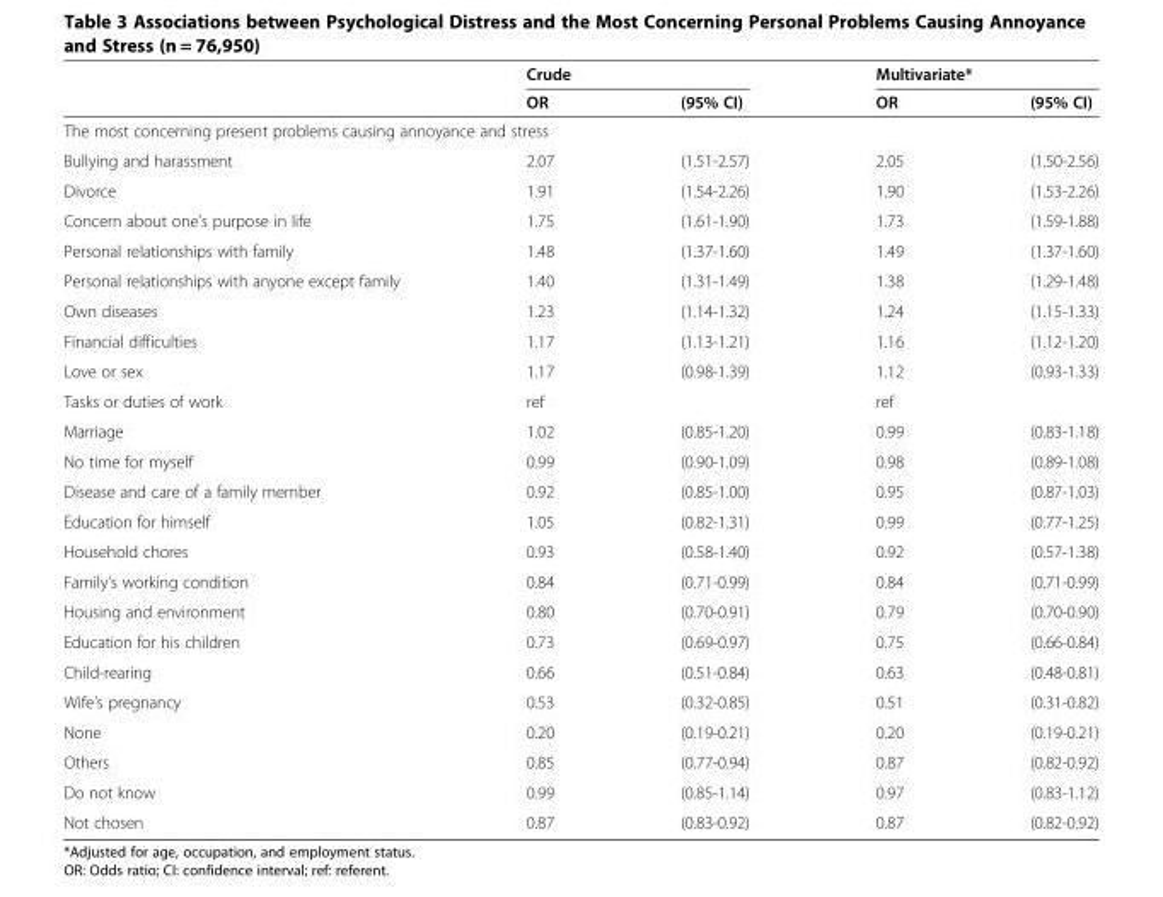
<table><thead><tr><td rowspan="2"></td><td colspan="2">Crude</td><td colspan="2">Multivariate*</td></tr><tr><td>OR</td><td>(95% CI)</td><td>OR</td><td>(95% CI)</td></tr></thead><tbody><tr><td colspan="5">The most concerning present problems causing annoyance and stress</td></tr><tr><td>Bullying and harassment</td><td>2.07</td><td>(1.51-2.57)</td><td>2.05</td><td>(1.50-2.56)</td></tr><tr><td>Divorce</td><td>1.91</td><td>(1.54-2.26)</td><td>1.90</td><td>(1.53-2.26)</td></tr><tr><td>Concern about one’s purpose in life</td><td>1.75</td><td>(1.61-1.90)</td><td>1.73</td><td>(1.59-1.88)</td></tr><tr><td>Personal relationships with family</td><td>1.48</td><td>(1.37-1.60)</td><td>1.49</td><td>(1.37-1.60)</td></tr><tr><td>Personal relationships with anyone except family</td><td>1.40</td><td>(1.31-1.49)</td><td>1.38</td><td>(1.29-1.48)</td></tr><tr><td>Own diseases</td><td>1.23</td><td>(1.14-1.32)</td><td>1.24</td><td>(1.15-1.33)</td></tr><tr><td>Financial difficulties</td><td>1.17</td><td>(1.13-1.21)</td><td>1.16</td><td>(1.12-1.20)</td></tr><tr><td>Love or sex</td><td>1.17</td><td>(0.98-1.39)</td><td>1.12</td><td>(0.93-1.33)</td></tr><tr><td>Tasks or duties of work</td><td>ref</td><td></td><td>ref</td><td></td></tr><tr><td>Marriage</td><td>1.02</td><td>(0.85-1.20)</td><td>0.99</td><td>(0.83-1.18)</td></tr><tr><td>No time for myself</td><td>0.99</td><td>(0.90-1.09)</td><td>0.98</td><td>(0.89-1.08)</td></tr><tr><td>Disease and care of a family member</td><td>0.92</td><td>(0.85-1.00)</td><td>0.95</td><td>(0.87-1.03)</td></tr><tr><td>Education for himself</td><td>1.05</td><td>(0.82-1.31)</td><td>0.99</td><td>(0.77-1.25)</td></tr><tr><td>Household chores</td><td>0.93</td><td>(0.58-1.40)</td><td>0.92</td><td>(0.57-1.38)</td></tr><tr><td>Family&#x27;s working condition</td><td>0.84</td><td>(0.71-0.99)</td><td>0.84</td><td>(0.71-0.99)</td></tr><tr><td>Housing and environment</td><td>0.80</td><td>(0.70-0.91)</td><td>0.79</td><td>(0.70-0.90)</td></tr><tr><td>Education for his children</td><td>0.73</td><td>(0.69-0.97)</td><td>0.75</td><td>(0.66-0.84)</td></tr><tr><td>Child-rearing</td><td>0.66</td><td>(0.51-0.84)</td><td>0.63</td><td>(0.48-0.81)</td></tr><tr><td>Wife’s pregnancy</td><td>0.53</td><td>(0.32-0.85)</td><td>0.51</td><td>(0.31-0.82)</td></tr><tr><td>None</td><td>0.20</td><td>(0.19-0.21)</td><td>0.20</td><td>(0.19-0.21)</td></tr><tr><td>Others</td><td>0.85</td><td>(0.77-0.94)</td><td>0.87</td><td>(0.82-0.92)</td></tr><tr><td>Do not know</td><td>0.99</td><td>(0.85-1.14)</td><td>0.97</td><td>(0.83-1.12)</td></tr><tr><td>Not chosen</td><td>0.87</td><td>(0.83-0.92)</td><td>0.87</td><td>(0.82-0.92)</td></tr></tbody></table>